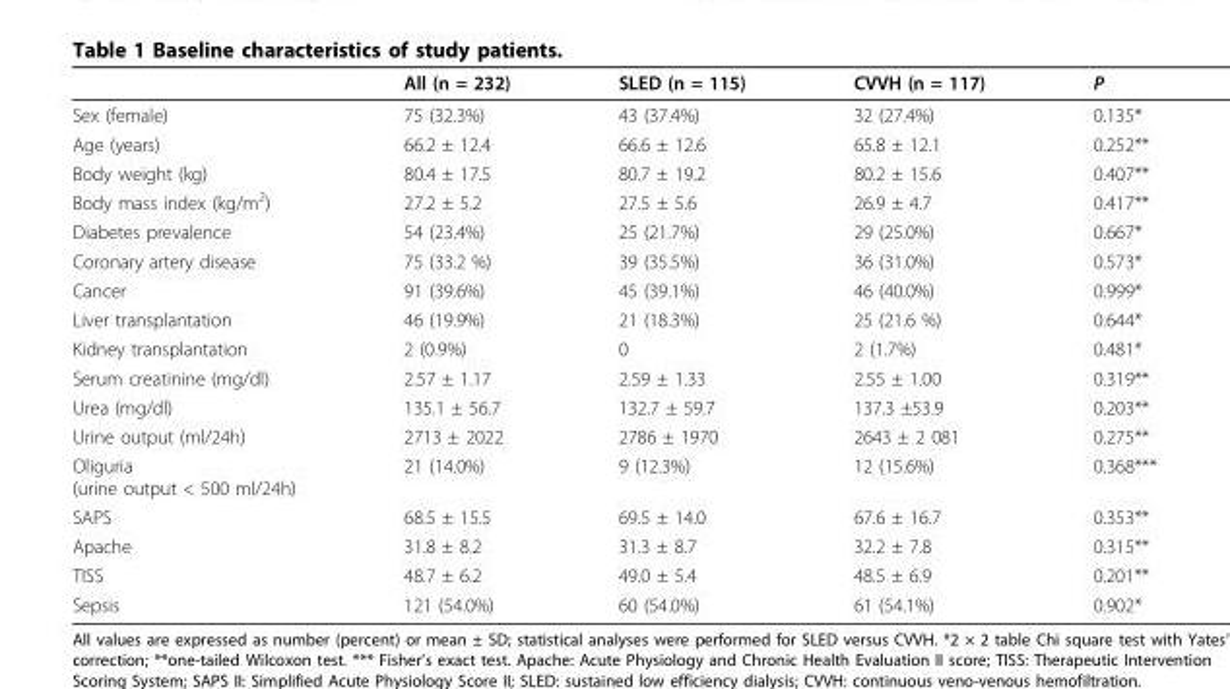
<table><thead><tr><td></td><td>All (n = 232)</td><td>SLED (n = 115)</td><td>CVVH (n = 117)</td><td>P</td></tr></thead><tbody><tr><td>Sex (female)</td><td>75 (32.3%)</td><td>43 (37.4%)</td><td>32 (27.4%)</td><td>0.135*</td></tr><tr><td>Age (years)</td><td>66.2 ± 12.4</td><td>66.6 ± 12.6</td><td>65.8 ± 12.1</td><td>0.252**</td></tr><tr><td>Body weight (kg)</td><td>80.4 ± 17.5</td><td>80.7 ± 19.2</td><td>80.2 ± 15.6</td><td>0.407**</td></tr><tr><td>Body mass index (kg/m<sup>2</sup>)</td><td>27.2 ± 5.2</td><td>27.5 ± 5.6</td><td>26.9 ± 4.7</td><td>0.417**</td></tr><tr><td>Diabetes prevalence</td><td>54 (23.4%)</td><td>25 (21.7%)</td><td>29 (25.0%)</td><td>0.667*</td></tr><tr><td>Coronary artery disease</td><td>75 (33.2 %)</td><td>39 (35.5%)</td><td>36 (31.0%)</td><td>0.573*</td></tr><tr><td>Cancer</td><td>91 (39.6%)</td><td>45 (39.1%)</td><td>46 (40.0%)</td><td>0.999*</td></tr><tr><td>Liver transplantation</td><td>46 (19.9%)</td><td>21 (18.3%)</td><td>25 (21.6 %)</td><td>0.644*</td></tr><tr><td>Kidney transplantation</td><td>2 (0.9%)</td><td>0</td><td>2 (1.7%)</td><td>0.481*</td></tr><tr><td>Serum creatinine (mg/dl)</td><td>2.57 ± 1.17</td><td>2.59 ± 1.33</td><td>2.55 ± 1.00</td><td>0.319**</td></tr><tr><td>Urea (mg/dl)</td><td>135.1 ± 56.7</td><td>132.7 ± 59.7</td><td>137.3 ±53.9</td><td>0.203**</td></tr><tr><td>Urine output (ml/24h)</td><td>2713 ± 2022</td><td>2786 ± 1970</td><td>2643 ± 2 081</td><td>0.275**</td></tr><tr><td>Oliguria (urine output &lt; 500 ml/24h)</td><td>21 (14.0%)</td><td>9 (12.3%)</td><td>12 (15.6%)</td><td>0.368***</td></tr><tr><td>SAPS</td><td>68.5 ± 15.5</td><td>69.5 ± 14.0</td><td>67.6 ± 16.7</td><td>0.353**</td></tr><tr><td>Apache</td><td>31.8 ± 8.2</td><td>31.3 ± 8.7</td><td>32.2 ± 7.8</td><td>0.315**</td></tr><tr><td>TISS</td><td>48.7 ± 6.2</td><td>49.0 ± 5.4</td><td>48.5 ± 6.9</td><td>0.201**</td></tr><tr><td>Sepsis</td><td>121 (54.0%)</td><td>60 (54.0%)</td><td>61 (54.1%)</td><td>0.902*</td></tr></tbody></table>